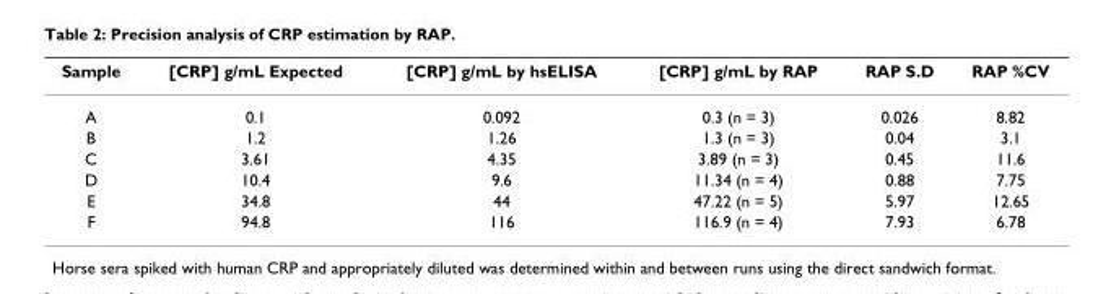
<table><thead><tr><td>Sample</td><td>[CRP] g/mL Expected</td><td>[CRP] g/mL by hsELISA</td><td>[CRP] g/mL by RAP</td><td>RAP S.D</td><td>RAP %CV</td></tr></thead><tbody><tr><td>A</td><td>0.1</td><td>0.092</td><td>0.3 (n = 3)</td><td>0.026</td><td>8.82</td></tr><tr><td>B</td><td>1.2</td><td>1.26</td><td>1.3 (n = 3)</td><td>0.04</td><td>3.1</td></tr><tr><td>C</td><td>3.61</td><td>4.35</td><td>3.89 (n = 3)</td><td>0.45</td><td>11.6</td></tr><tr><td>D</td><td>10.4</td><td>9.6</td><td>11.34 (n = 4)</td><td>0.88</td><td>7.75</td></tr><tr><td>E</td><td>34.8</td><td>44</td><td>47.22 (n = 5)</td><td>5.97</td><td>12.65</td></tr><tr><td>F</td><td>94.8</td><td>116</td><td>116.9 (n = 4)</td><td>7.93</td><td>6.78</td></tr></tbody></table>